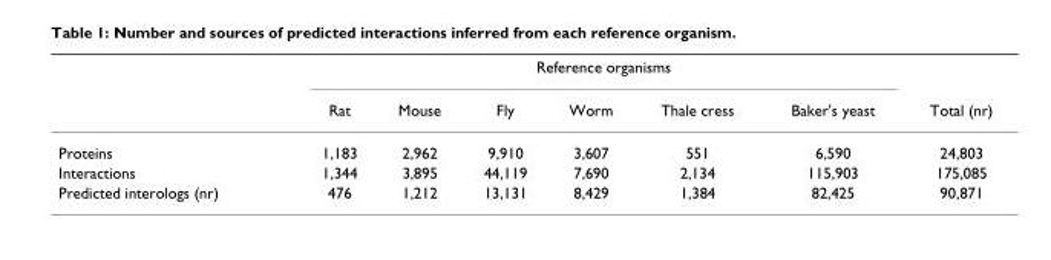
<table><thead><tr><td rowspan="2"></td><td colspan="6">Reference organisms</td><td rowspan="2">Total (nr)</td></tr><tr><td>Rat</td><td>Mouse</td><td>Fly</td><td>Worm</td><td>Thale cress</td><td>Baker&#x27;s yeast</td></tr></thead><tbody><tr><td>Proteins</td><td>1,183</td><td>2,962</td><td>9,910</td><td>3,607</td><td>551</td><td>6,590</td><td>24,803</td></tr><tr><td>Interactions</td><td>1,344</td><td>3,895</td><td>44,119</td><td>7,690</td><td>2,134</td><td>115,903</td><td>175,085</td></tr><tr><td>Predicted interologs (nr)</td><td>476</td><td>1,212</td><td>13,131</td><td>8,429</td><td>1,384</td><td>82,425</td><td>90,871</td></tr></tbody></table>